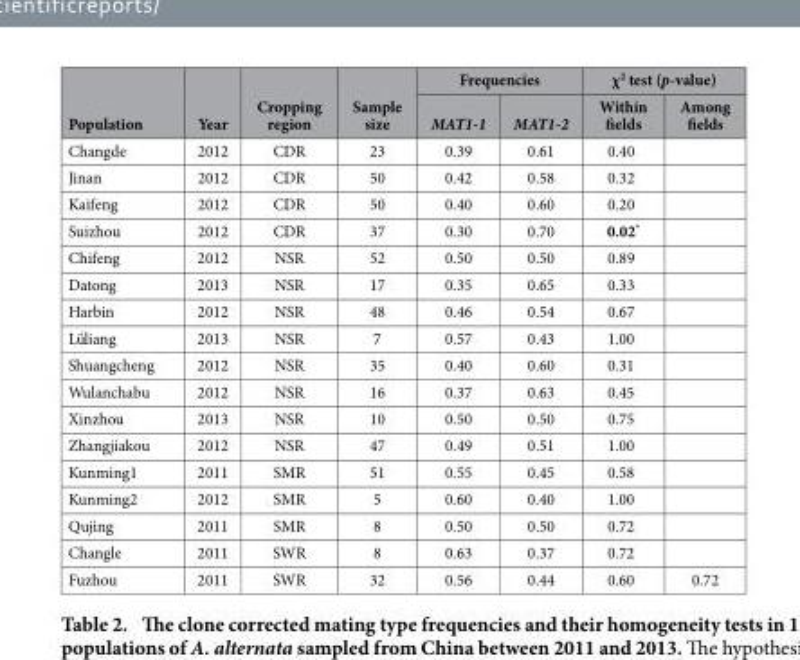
<table><thead><tr><td rowspan="2">Population</td><td rowspan="2">Year</td><td rowspan="2">Cropping region</td><td rowspan="2">Sample size</td><td colspan="2">Frequencies</td><td colspan="2">χ <sup>2</sup> test (p-value)</td></tr><tr><td>MAT1-1</td><td>MAT1-2</td><td>Within fields</td><td>Among fields</td></tr></thead><tbody><tr><td>Changde</td><td>2012</td><td>CDR</td><td>23</td><td>0.39</td><td>0.61</td><td>0.40</td><td></td></tr><tr><td>Jinan</td><td>2012</td><td>CDR</td><td>50</td><td>0.42</td><td>0.58</td><td>0.32</td><td></td></tr><tr><td>Kaifeng</td><td>2012</td><td>CDR</td><td>50</td><td>0.40</td><td>0.60</td><td>0.20</td><td></td></tr><tr><td>Suizhou</td><td>2012</td><td>CDR</td><td>37</td><td>0.30</td><td>0.70</td><td>0.02*</td><td></td></tr><tr><td>Chifeng</td><td>2012</td><td>NSR</td><td>52</td><td>0.50</td><td>0.50</td><td>0.89</td><td></td></tr><tr><td>Datong</td><td>2013</td><td>NSR</td><td>17</td><td>0.35</td><td>0.65</td><td>0.33</td><td></td></tr><tr><td>Harbin</td><td>2012</td><td>NSR</td><td>48</td><td>0.46</td><td>0.54</td><td>0.67</td><td></td></tr><tr><td>Lü´liang</td><td>2013</td><td>NSR</td><td>7</td><td>0.57</td><td>0.43</td><td>1.00</td><td></td></tr><tr><td>Shuangcheng</td><td>2012</td><td>NSR</td><td>35</td><td>0.40</td><td>0.60</td><td>0.31</td><td></td></tr><tr><td>Wulanchabu</td><td>2012</td><td>NSR</td><td>16</td><td>0.37</td><td>0.63</td><td>0.45</td><td></td></tr><tr><td>Xinzhou</td><td>2013</td><td>NSR</td><td>10</td><td>0.50</td><td>0.50</td><td>0.75</td><td></td></tr><tr><td>Zhangjiakou</td><td>2012</td><td>NSR</td><td>47</td><td>0.49</td><td>0.51</td><td>1.00</td><td></td></tr><tr><td>Kunming1</td><td>2011</td><td>SMR</td><td>51</td><td>0.55</td><td>0.45</td><td>0.58</td><td></td></tr><tr><td>Kunming2</td><td>2012</td><td>SMR</td><td>5</td><td>0.60</td><td>0.40</td><td>1.00</td><td></td></tr><tr><td>Qujing</td><td>2011</td><td>SMR</td><td>8</td><td>0.50</td><td>0.50</td><td>0.72</td><td></td></tr><tr><td>Changle</td><td>2011</td><td>SWR</td><td>8</td><td>0.63</td><td>0.37</td><td>0.72</td><td></td></tr><tr><td>Fuzhou</td><td>2011</td><td>SWR</td><td>32</td><td>0.56</td><td>0.44</td><td>0.60</td><td>0.72</td></tr></tbody></table>